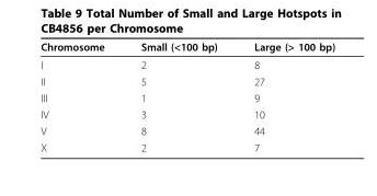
<table><thead><tr><td>Chromosome</td><td>Small (&lt;100 bp)</td><td>Large (&gt; 100 bp)</td></tr></thead><tbody><tr><td>I</td><td>2</td><td>8</td></tr><tr><td>II</td><td>5</td><td>27</td></tr><tr><td>III</td><td>1</td><td>9</td></tr><tr><td>IV</td><td>3</td><td>10</td></tr><tr><td>V</td><td>8</td><td>44</td></tr><tr><td>X</td><td>2</td><td>7</td></tr></tbody></table>